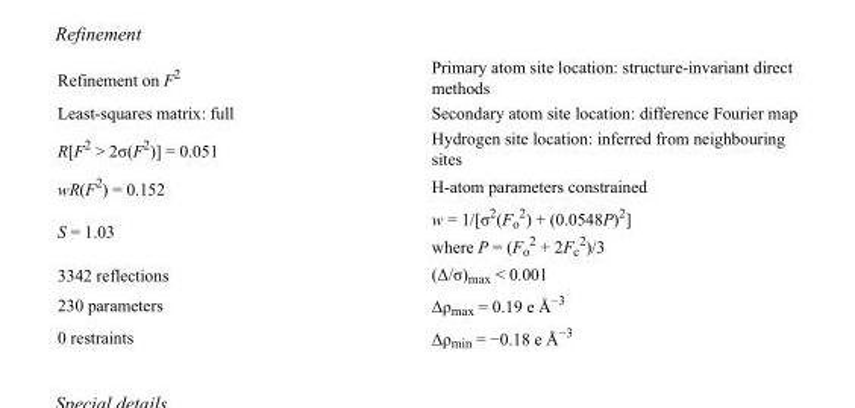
<table><tbody><tr><td>Refinement on F<sup>2</sup></td><td>Primary atom site location: structure-invariant direct methods</td></tr><tr><td>Least-squares matrix: full</td><td>Secondary atom site location: difference Fourier map</td></tr><tr><td>R[F<sup>2</sup> &gt; 2σ(F<sup>2</sup>)] = 0.051</td><td>Hydrogen site location: inferred from neighbouring sites</td></tr><tr><td>wR(F<sup>2</sup>) = 0.152</td><td>H-atom parameters constrained</td></tr><tr><td>S = 1.03</td><td>w = 1/[σ<sup>2</sup>(F<sub>o</sub> <sup>2</sup>) + (0.0548P)<sup>2</sup>] where P = (F<sub>o</sub> <sup>2</sup> + 2F<sub>c</sub> <sup>2</sup>)/3</td></tr><tr><td>3342 reflections</td><td>(Δ/σ)<sub>max</sub> &lt; 0.001</td></tr><tr><td>230 parameters</td><td>Δρ<sub>max</sub> = 0.19 e Å<sup>−3</sup></td></tr><tr><td>0 restraints</td><td>Δρ<sub>min</sub> = −0.18 e Å<sup>−3</sup></td></tr></tbody></table>